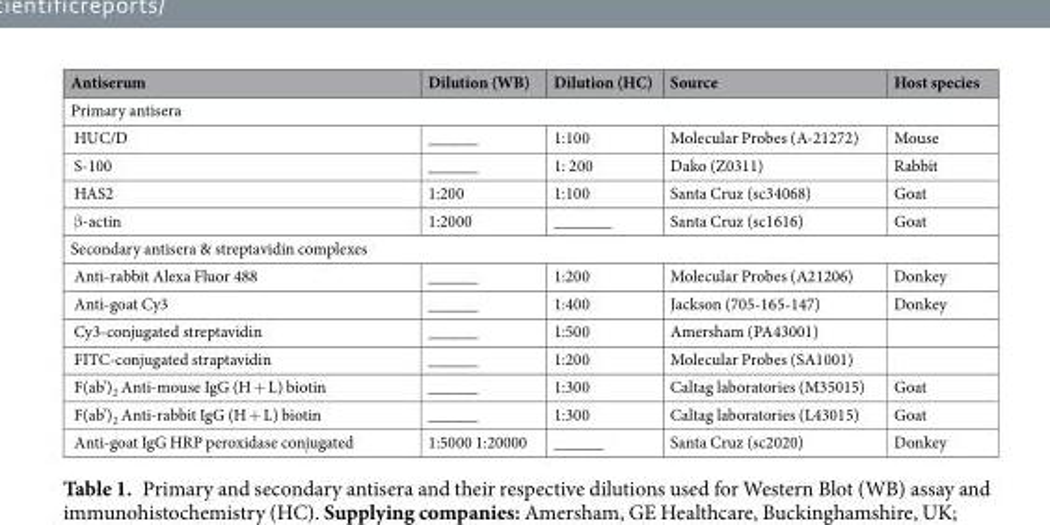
<table><thead><tr><td>Antiserum</td><td>Dilution (WB)</td><td>Dilution (HC)</td><td>Source</td><td>Host species</td></tr></thead><tbody><tr><td colspan="5">Primary antisera</td></tr><tr><td>HUC/D</td><td>______</td><td>1:100</td><td>Molecular Probes (A-21272)</td><td>Mouse</td></tr><tr><td>S-100</td><td>______</td><td>1: 200</td><td>Dako (Z0311)</td><td>Rabbit</td></tr><tr><td>HAS2</td><td>1:200</td><td>1:100</td><td>Santa Cruz (sc34068)</td><td>Goat</td></tr><tr><td>β-actin</td><td>1:2000</td><td>_______</td><td>Santa Cruz (sc1616)</td><td>Goat</td></tr><tr><td colspan="5">Secondary antisera &amp; streptavidin complexes</td></tr><tr><td>Anti-rabbit Alexa Fluor 488</td><td>______</td><td>1:200</td><td>Molecular Probes (A21206)</td><td>Donkey</td></tr><tr><td>Anti-goat Cy3</td><td>______</td><td>1:400</td><td>Jackson (705-165-147)</td><td>Donkey</td></tr><tr><td>Cy3-conjugated streptavidin</td><td>______</td><td>1:500</td><td>Amersham (PA43001)</td><td></td></tr><tr><td>FITC-conjugated straptavidin</td><td>______</td><td>1:200</td><td>Molecular Probes (SA1001)</td><td></td></tr><tr><td>F(ab’)<sub>2</sub> Anti-mouse IgG (H + L) biotin</td><td>______</td><td>1:300</td><td>Caltag laboratories (M35015)</td><td>Goat</td></tr><tr><td>F(ab’)<sub>2</sub> Anti-rabbit IgG (H + L) biotin</td><td>______</td><td>1:300</td><td>Caltag laboratories (L43015)</td><td>Goat</td></tr><tr><td>Anti-goat IgG HRP peroxidase conjugated</td><td>1:5000 1:20000</td><td>______</td><td>Santa Cruz (sc2020)</td><td>Donkey</td></tr></tbody></table>